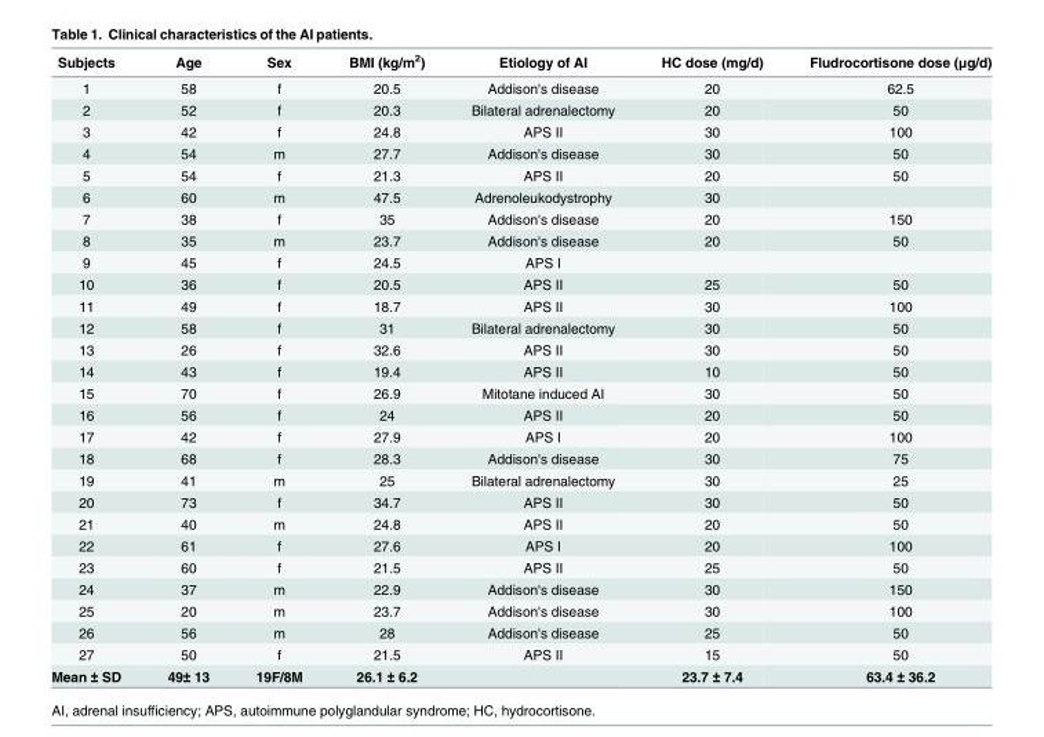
<table><thead><tr><td>Subjects</td><td>Age</td><td>Sex</td><td>BMI (kg/m<sup>2</sup>)</td><td>Etiology of AI</td><td>HC dose (mg/d)</td><td>Fludrocortisone dose (μg/d)</td></tr></thead><tbody><tr><td>1</td><td>58</td><td>f</td><td>20.5</td><td>Addison&#x27;s disease</td><td>20</td><td>62.5</td></tr><tr><td>2</td><td>52</td><td>f</td><td>20.3</td><td>Bilateral adrenalectomy</td><td>20</td><td>50</td></tr><tr><td>3</td><td>42</td><td>f</td><td>24.8</td><td>APS II</td><td>30</td><td>100</td></tr><tr><td>4</td><td>54</td><td>m</td><td>27.7</td><td>Addison&#x27;s disease</td><td>30</td><td>50</td></tr><tr><td>5</td><td>54</td><td>f</td><td>21.3</td><td>APS II</td><td>20</td><td>50</td></tr><tr><td>6</td><td>60</td><td>m</td><td>47.5</td><td>Adrenoleukodystrophy</td><td>30</td><td></td></tr><tr><td>7</td><td>38</td><td>f</td><td>35</td><td>Addison&#x27;s disease</td><td>20</td><td>150</td></tr><tr><td>8</td><td>35</td><td>m</td><td>23.7</td><td>Addison&#x27;s disease</td><td>20</td><td>50</td></tr><tr><td>9</td><td>45</td><td>f</td><td>24.5</td><td>APS I</td><td></td><td></td></tr><tr><td>10</td><td>36</td><td>f</td><td>20.5</td><td>APS II</td><td>25</td><td>50</td></tr><tr><td>11</td><td>49</td><td>f</td><td>18.7</td><td>APS II</td><td>30</td><td>100</td></tr><tr><td>12</td><td>58</td><td>f</td><td>31</td><td>Bilateral adrenalectomy</td><td>30</td><td>50</td></tr><tr><td>13</td><td>26</td><td>f</td><td>32.6</td><td>APS II</td><td>30</td><td>50</td></tr><tr><td>14</td><td>43</td><td>f</td><td>19.4</td><td>APS II</td><td>10</td><td>50</td></tr><tr><td>15</td><td>70</td><td>f</td><td>26.9</td><td>Mitotane induced AI</td><td>30</td><td>50</td></tr><tr><td>16</td><td>56</td><td>f</td><td>24</td><td>APS II</td><td>20</td><td>50</td></tr><tr><td>17</td><td>42</td><td>f</td><td>27.9</td><td>APS I</td><td>20</td><td>100</td></tr><tr><td>18</td><td>68</td><td>f</td><td>28.3</td><td>Addison&#x27;s disease</td><td>30</td><td>75</td></tr><tr><td>19</td><td>41</td><td>m</td><td>25</td><td>Bilateral adrenalectomy</td><td>30</td><td>25</td></tr><tr><td>20</td><td>73</td><td>f</td><td>34.7</td><td>APS II</td><td>30</td><td>50</td></tr><tr><td>21</td><td>40</td><td>m</td><td>24.8</td><td>APS II</td><td>20</td><td>50</td></tr><tr><td>22</td><td>61</td><td>f</td><td>27.6</td><td>APS I</td><td>20</td><td>100</td></tr><tr><td>23</td><td>60</td><td>f</td><td>21.5</td><td>APS II</td><td>25</td><td>50</td></tr><tr><td>24</td><td>37</td><td>m</td><td>22.9</td><td>Addison&#x27;s disease</td><td>30</td><td>150</td></tr><tr><td>25</td><td>20</td><td>m</td><td>23.7</td><td>Addison&#x27;s disease</td><td>30</td><td>100</td></tr><tr><td>26</td><td>56</td><td>m</td><td>28</td><td>Addison&#x27;s disease</td><td>25</td><td>50</td></tr><tr><td>27</td><td>50</td><td>f</td><td>21.5</td><td>APS II</td><td>15</td><td>50</td></tr><tr><td>Mean ± SD</td><td>49± 13</td><td>19F/8M</td><td>26.1 ± 6.2</td><td></td><td>23.7 ± 7.4</td><td>63.4 ± 36.2</td></tr></tbody></table>